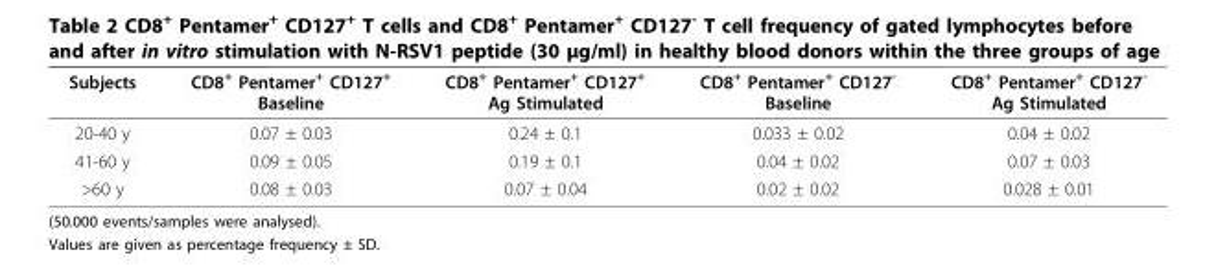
<table><thead><tr><td>Subjects</td><td>CD8<sup>+</sup> Pentamer<sup>+</sup> CD127<sup>+</sup> Baseline</td><td>CD8<sup>+</sup> Pentamer<sup>+</sup> CD127<sup>+</sup> Ag Stimulated</td><td>CD8<sup>+</sup> Pentamer<sup>+</sup> CD127<sup>-</sup> Baseline</td><td>CD8<sup>+</sup> Pentamer<sup>+</sup> CD127<sup>-</sup> Ag Stimulated</td></tr></thead><tbody><tr><td>20-40 y</td><td>0.07 ± 0.03</td><td>0.24 ± 0.1</td><td>0.033 ± 0.02</td><td>0.04 ± 0.02</td></tr><tr><td>41-60 y</td><td>0.09 ± 0.05</td><td>0.19 ± 0.1</td><td>0.04 ± 0.02</td><td>0.07 ± 0.03</td></tr><tr><td>&gt;60 y</td><td>0.08 ± 0.03</td><td>0.07 ± 0.04</td><td>0.02 ± 0.02</td><td>0.028 ± 0.01</td></tr></tbody></table>